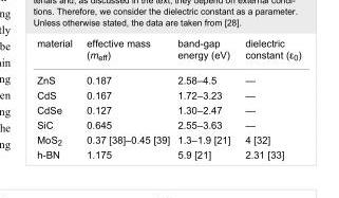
<table><tbody><tr><td>material</td><td>effective mass (m<sub>eff</sub>)</td><td>band-gap energy (eV)</td><td>dielectric constant (ε<sub>0</sub>)</td></tr><tr><td>ZnS</td><td>0.187</td><td>2.58–4.5</td><td>—</td></tr><tr><td>CdS</td><td>0.167</td><td>1.72–3.23</td><td>—</td></tr><tr><td>CdSe</td><td>0.127</td><td>1.30–2.47</td><td>—</td></tr><tr><td>SiC</td><td>0.645</td><td>2.55–3.63</td><td>—</td></tr><tr><td>MoS<sub>2</sub></td><td>0.37 [38]–0.45 [39]</td><td>1.3–1.9 [21]</td><td>4 [32]</td></tr><tr><td>h-BN</td><td>1.175</td><td>5.9 [21]</td><td>2.31 [33]</td></tr></tbody></table>